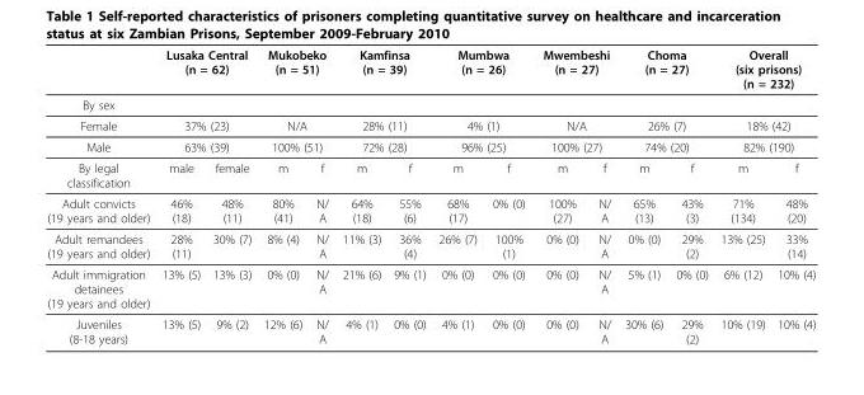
<table><thead><tr><td rowspan="2">By sex</td><td colspan="2">Lusaka Central (n = 62)</td><td colspan="2">Mukobeko (n = 51)</td><td colspan="2">Kamfinsa (n = 39)</td><td colspan="2">Mumbwa (n = 26)</td><td colspan="2">Mwembeshi (n = 27)</td><td colspan="2">Choma (n = 27)</td><td colspan="2">Overall (six prisons) (n = 232)</td></tr><tr><td></td><td></td><td></td><td></td><td></td><td></td><td></td><td></td><td></td><td></td><td></td><td></td><td></td><td></td></tr></thead><tbody><tr><td>Female</td><td colspan="2">37% (23)</td><td colspan="2">N/A</td><td colspan="2">28% (11)</td><td colspan="2">4% (1)</td><td colspan="2">N/A</td><td colspan="2">26% (7)</td><td colspan="2">18% (42)</td></tr><tr><td>Male</td><td colspan="2">63% (39)</td><td colspan="2">100% (51)</td><td colspan="2">72% (28)</td><td colspan="2">96% (25)</td><td colspan="2">100% (27)</td><td colspan="2">74% (20)</td><td colspan="2">82% (190)</td></tr><tr><td>By legal classification</td><td>male</td><td>female</td><td>m</td><td>f</td><td>m</td><td>f</td><td>m</td><td>f</td><td>m</td><td>f</td><td>m</td><td>f</td><td>m</td><td>f</td></tr><tr><td>Adult convicts (19 years and older)</td><td>46% (18)</td><td>48% (11)</td><td>80% (41)</td><td>N/ A</td><td>64% (18)</td><td>55% (6)</td><td>68% (17)</td><td>0% (0)</td><td>100% (27)</td><td>N/ A</td><td>65% (13)</td><td>43% (3)</td><td>71% (134)</td><td>48% (20)</td></tr><tr><td>Adult remandees (19 years and older)</td><td>28% (11)</td><td>30% (7)</td><td>8% (4)</td><td>N/ A</td><td>11% (3)</td><td>36% (4)</td><td>26% (7)</td><td>100% (1)</td><td>0% (0)</td><td>N/ A</td><td>0% (0)</td><td>29% (2)</td><td>13% (25)</td><td>33% (14)</td></tr><tr><td>Adult immigration detainees (19 years and older)</td><td>13% (5)</td><td>13% (3)</td><td>0% (0)</td><td>N/ A</td><td>21% (6)</td><td>9% (1)</td><td>0% (0)</td><td>0% (0)</td><td>0% (0)</td><td>N/ A</td><td>5% (1)</td><td>0% (0)</td><td>6% (12)</td><td>10% (4)</td></tr><tr><td>Juveniles (8-18 years)</td><td>13% (5)</td><td>9% (2)</td><td>12% (6)</td><td>N/ A</td><td>4% (1)</td><td>0% (0)</td><td>4% (1)</td><td>0% (0)</td><td>0% (0)</td><td>N/ A</td><td>30% (6)</td><td>29% (2)</td><td>10% (19)</td><td>10% (4)</td></tr></tbody></table>